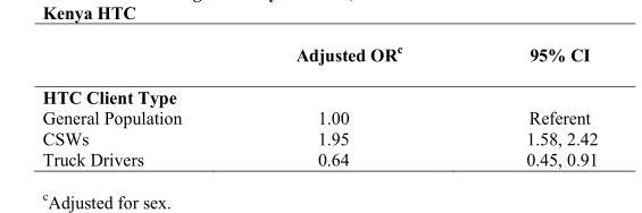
<table><thead><tr><td></td><td>Adjusted OR<sup>c</sup></td><td>95% CI</td></tr></thead><tbody><tr><td colspan="3">HTC Client Type</td></tr><tr><td>General Population</td><td>1.00</td><td>Referent</td></tr><tr><td>CSWs</td><td>1.95</td><td>1.58, 2.42</td></tr><tr><td>Truck Drivers</td><td>0.64</td><td>0.45, 0.91</td></tr></tbody></table>